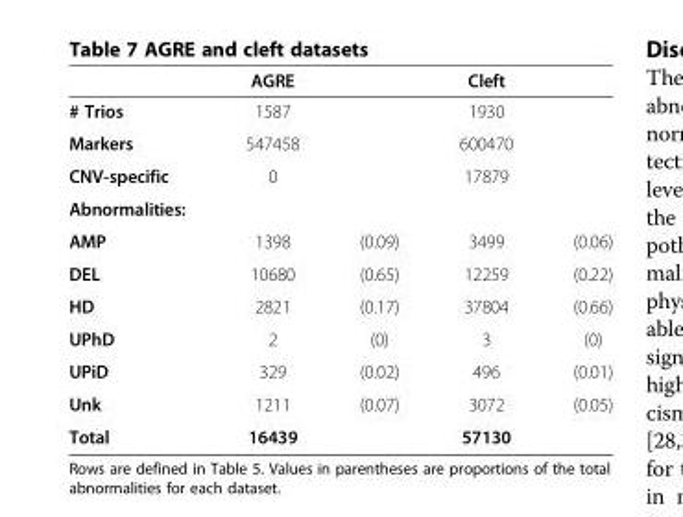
<table><thead><tr><td></td><td>AGRE</td><td></td><td>Cleft</td><td></td></tr></thead><tbody><tr><td># Trios</td><td>1587</td><td></td><td>1930</td><td></td></tr><tr><td>Markers</td><td>547458</td><td></td><td>600470</td><td></td></tr><tr><td>CNV-specific</td><td>0</td><td></td><td>17879</td><td></td></tr><tr><td colspan="5">Abnormalities:</td></tr><tr><td>AMP</td><td>1398</td><td>(0.09)</td><td>3499</td><td>(0.06)</td></tr><tr><td>DEL</td><td>10680</td><td>(0.65)</td><td>12259</td><td>(0.22)</td></tr><tr><td>HD</td><td>2821</td><td>(0.17)</td><td>37804</td><td>(0.66)</td></tr><tr><td>UPhD</td><td>2</td><td>(0)</td><td>3</td><td>(0)</td></tr><tr><td>UPiD</td><td>329</td><td>(0.02)</td><td>496</td><td>(0.01)</td></tr><tr><td>Unk</td><td>1211</td><td>(0.07)</td><td>3072</td><td>(0.05)</td></tr><tr><td>Total</td><td>16439</td><td></td><td>57130</td><td></td></tr></tbody></table>